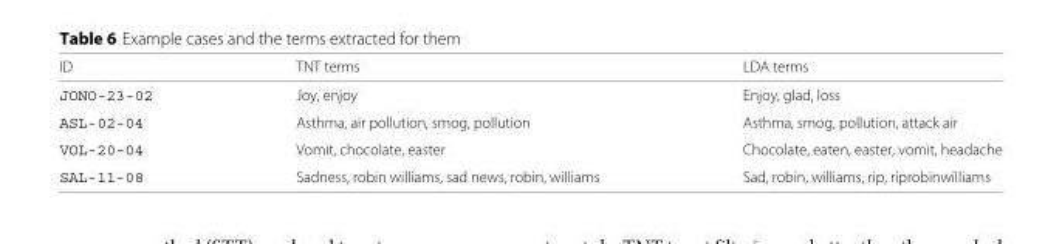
<table><thead><tr><td>ID</td><td>TNT terms</td><td>LDA terms</td></tr></thead><tbody><tr><td>JONO-23-02</td><td>Joy, enjoy</td><td>Enjoy, glad, loss</td></tr><tr><td>ASL-02-04</td><td>Asthma, air pollution, smog, pollution</td><td>Asthma, smog, pollution, attack air</td></tr><tr><td>VOL-20-04</td><td>Vomit, chocolate, easter</td><td>Chocolate, eaten, easter, vomit, headache</td></tr><tr><td>SAL-11-08</td><td>Sadness, robin williams, sad news, robin, williams</td><td>Sad, robin, williams, rip, riprobinwilliams</td></tr></tbody></table>